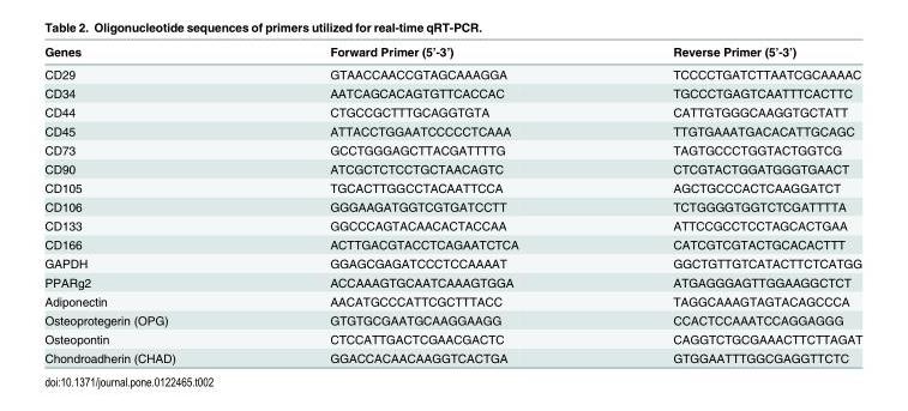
<table><thead><tr><td>Genes</td><td>Forward Primer (5’-3’)</td><td>Reverse Primer (5’-3’)</td></tr></thead><tbody><tr><td>CD29</td><td>GTAACCAACCGTAGCAAAGGA</td><td>TCCCCTGATCTTAATCGCAAAAC</td></tr><tr><td>CD34</td><td>AATCAGCACAGTGTTCACCAC</td><td>TGCCCTGAGTCAATTTCACTTC</td></tr><tr><td>CD44</td><td>CTGCCGCTTTGCAGGTGTA</td><td>CATTGTGGGCAAGGTGCTATT</td></tr><tr><td>CD45</td><td>ATTACCTGGAATCCCCCTCAAA</td><td>TTGTGAAATGACACATTGCAGC</td></tr><tr><td>CD73</td><td>GCCTGGGAGCTTACGATTTTG</td><td>TAGTGCCCTGGTACTGGTCG</td></tr><tr><td>CD90</td><td>ATCGCTCTCCTGCTAACAGTC</td><td>CTCGTACTGGATGGGTGAACT</td></tr><tr><td>CD105</td><td>TGCACTTGGCCTACAATTCCA</td><td>AGCTGCCCACTCAAGGATCT</td></tr><tr><td>CD106</td><td>GGGAAGATGGTCGTGATCCTT</td><td>TCTGGGGTGGTCTCGATTTTA</td></tr><tr><td>CD133</td><td>GGCCCAGTACAACACTACCAA</td><td>ATTCCGCCTCCTAGCACTGAA</td></tr><tr><td>CD166</td><td>ACTTGACGTACCTCAGAATCTCA</td><td>CATCGTCGTACTGCACACTTT</td></tr><tr><td>GAPDH</td><td>GGAGCGAGATCCCTCCAAAAT</td><td>GGCTGTTGTCATACTTCTCATGG</td></tr><tr><td>PPARg2</td><td>ACCAAAGTGCAATCAAAGTGGA</td><td>ATGAGGGAGTTGGAAGGCTCT</td></tr><tr><td>Adiponectin</td><td>AACATGCCCATTCGCTTTACC</td><td>TAGGCAAAGTAGTACAGCCCA</td></tr><tr><td>Osteoprotegerin (OPG)</td><td>GTGTGCGAATGCAAGGAAGG</td><td>CCACTCCAAATCCAGGAGGG</td></tr><tr><td>Osteopontin</td><td>CTCCATTGACTCGAACGACTC</td><td>CAGGTCTGCGAAACTTCTTAGAT</td></tr><tr><td>Chondroadherin (CHAD)</td><td>GGACCACAACAAGGTCACTGA</td><td>GTGGAATTTGGCGAGGTTCTC</td></tr></tbody></table>